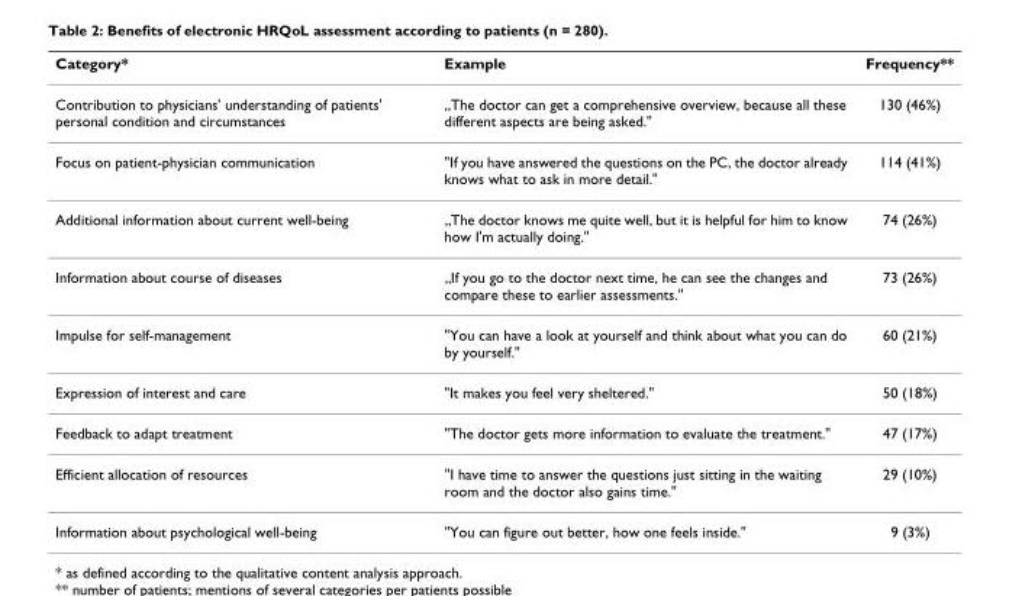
<table><thead><tr><td>Category*</td><td>Example</td><td>Frequency**</td></tr></thead><tbody><tr><td>Contribution to physicians&#x27; understanding of patients&#x27; personal condition and circumstances</td><td>„The doctor can get a comprehensive overview, because all these different aspects are being asked.&quot;</td><td>130 (46%)</td></tr><tr><td>Focus on patient-physician communication</td><td>&quot;If you have answered the questions on the PC, the doctor already knows what to ask in more detail.&quot;</td><td>114 (41%)</td></tr><tr><td>Additional information about current well-being</td><td>„The doctor knows me quite well, but it is helpful for him to know how I&#x27;m actually doing.&quot;</td><td>74 (26%)</td></tr><tr><td>Information about course of diseases</td><td>„If you go to the doctor next time, he can see the changes and compare these to earlier assessments.&quot;</td><td>73 (26%)</td></tr><tr><td>Impulse for self-management</td><td>&quot;You can have a look at yourself and think about what you can do by yourself.&quot;</td><td>60 (21%)</td></tr><tr><td>Expression of interest and care</td><td>&quot;It makes you feel very sheltered.&quot;</td><td>50 (18%)</td></tr><tr><td>Feedback to adapt treatment</td><td>&quot;The doctor gets more information to evaluate the treatment.&quot;</td><td>47 (17%)</td></tr><tr><td>Efficient allocation of resources</td><td>&quot;I have time to answer the questions just sitting in the waiting room and the doctor also gains time.&quot;</td><td>29 (10%)</td></tr><tr><td>Information about psychological well-being</td><td>&quot;You can figure out better, how one feels inside.&quot;</td><td>9 (3%)</td></tr></tbody></table>